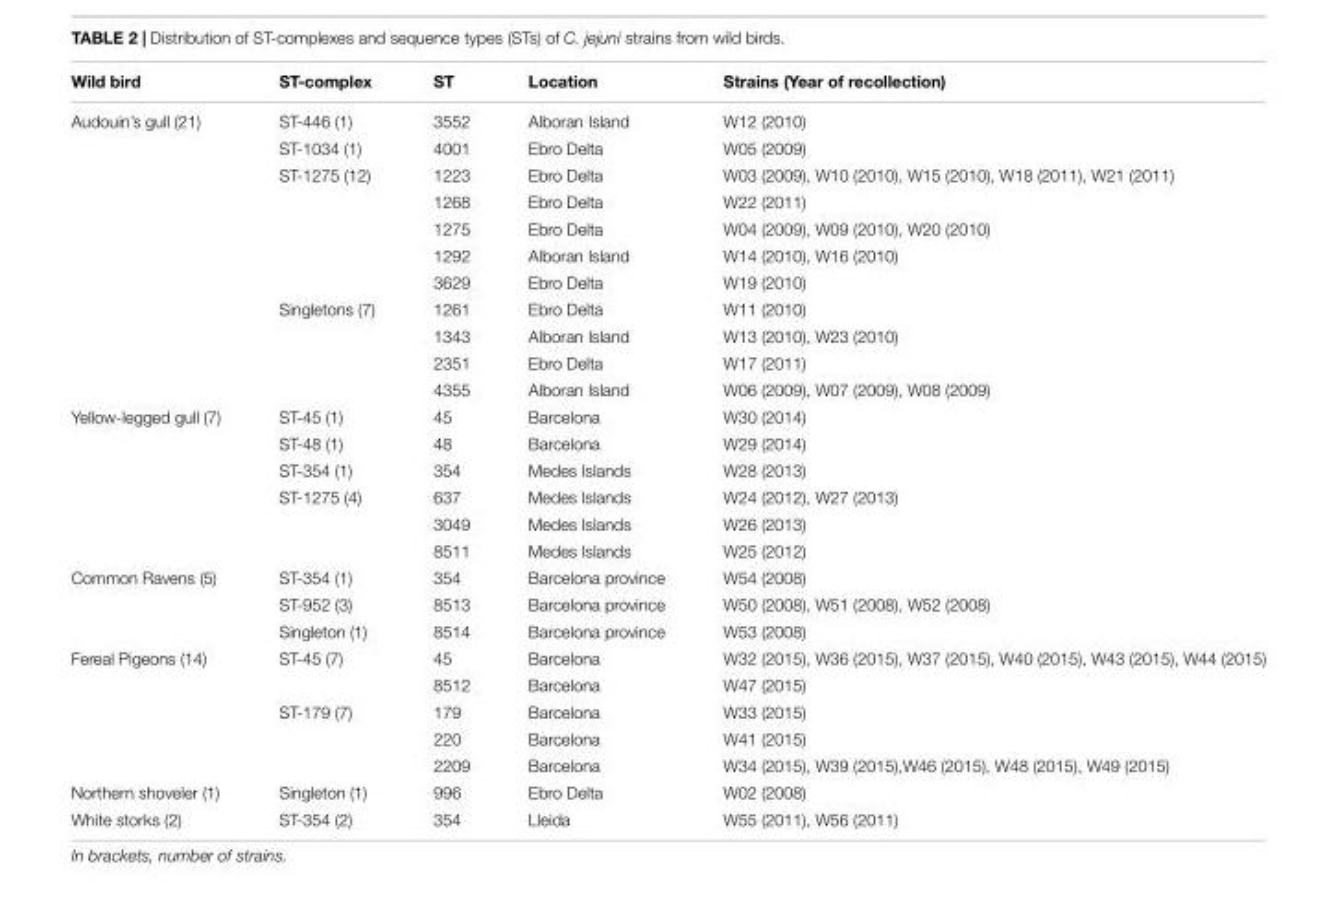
<table><thead><tr><td>Wild bird</td><td>ST-complex</td><td>ST</td><td>Location</td><td>Strains (Year of recollection)</td></tr></thead><tbody><tr><td rowspan="11">Audouin’s gull (21)</td><td>ST-446 (1)</td><td>3552</td><td>Alboran Island</td><td>W12 (2010)</td></tr><tr><td>ST-1034 (1)</td><td>4001</td><td>Ebro Delta</td><td>W05 (2009)</td></tr><tr><td>ST-1275 (12)</td><td>1223</td><td>Ebro Delta</td><td>W03 (2009), W10 (2010), W15 (2010), W18 (2011), W21 (2011)</td></tr><tr><td></td><td>1268</td><td>Ebro Delta</td><td>W22 (2011)</td></tr><tr><td></td><td>1275</td><td>Ebro Delta</td><td>W04 (2009), W09 (2010), W20 (2010)</td></tr><tr><td></td><td>1292</td><td>Alboran Island</td><td>W14 (2010), W16 (2010)</td></tr><tr><td></td><td>3629</td><td>Ebro Delta</td><td>W19 (2010)</td></tr><tr><td>Singletons (7)</td><td>1261</td><td>Ebro Delta</td><td>W11 (2010)</td></tr><tr><td></td><td>1343</td><td>Alboran Island</td><td>W13 (2010), W23 (2010)</td></tr><tr><td></td><td>2351</td><td>Ebro Delta</td><td>W17 (2011)</td></tr><tr><td></td><td>4355</td><td>Alboran Island</td><td>W06 (2009), W07 (2009), W08 (2009)</td></tr><tr><td rowspan="6">Yellow-legged gull (7)</td><td>ST-45 (1)</td><td>45</td><td>Barcelona</td><td>W30 (2014)</td></tr><tr><td>ST-48 (1)</td><td>48</td><td>Barcelona</td><td>W29 (2014)</td></tr><tr><td>ST-354 (1)</td><td>354</td><td>Medes Islands</td><td>W28 (2013)</td></tr><tr><td>ST-1275 (4)</td><td>637</td><td>Medes Islands</td><td>W24 (2012), W27 (2013)</td></tr><tr><td></td><td>3049</td><td>Medes Islands</td><td>W26 (2013)</td></tr><tr><td></td><td>8511</td><td>Medes Islands</td><td>W25 (2012)</td></tr><tr><td rowspan="3">Common Ravens (5)</td><td>ST-354 (1)</td><td>354</td><td>Barcelona province</td><td>W54 (2008)</td></tr><tr><td>ST-952 (3)</td><td>8513</td><td>Barcelona province</td><td>W50 (2008), W51 (2008), W52 (2008)</td></tr><tr><td>Singleton (1)</td><td>8514</td><td>Barcelona province</td><td>W53 (2008)</td></tr><tr><td rowspan="5">Fereal Pigeons (14)</td><td>ST-45 (7)</td><td>45</td><td>Barcelona</td><td>W32 (2015), W36 (2015), W37 (2015), W40 (2015), W43 (2015), W44 (2015)</td></tr><tr><td></td><td>8512</td><td>Barcelona</td><td>W47 (2015)</td></tr><tr><td>ST-179 (7)</td><td>179</td><td>Barcelona</td><td>W33 (2015)</td></tr><tr><td></td><td>220</td><td>Barcelona</td><td>W41 (2015)</td></tr><tr><td></td><td>2209</td><td>Barcelona</td><td>W34 (2015), W39 (2015),W46 (2015), W48 (2015), W49 (2015)</td></tr><tr><td>Northern shoveler (1)</td><td>Singleton (1)</td><td>996</td><td>Ebro Delta</td><td>W02 (2008)</td></tr><tr><td>White storks (2)</td><td>ST-354 (2)</td><td>354</td><td>Lleida</td><td>W55 (2011), W56 (2011)</td></tr></tbody></table>